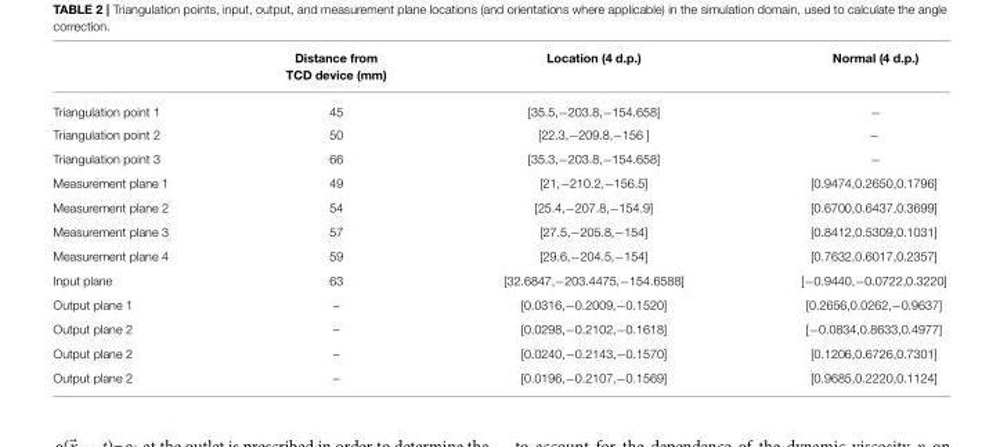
<table><thead><tr><td></td><td>Distance from TCD device (mm)</td><td>Location (4 d.p.)</td><td>Normal (4 d.p.)</td></tr></thead><tbody><tr><td>Triangulation point 1</td><td>45</td><td>[35.5,−203.8,−154.658]</td><td>−</td></tr><tr><td>Triangulation point 2</td><td>50</td><td>[22.3,−209.8,−156 ]</td><td>−</td></tr><tr><td>Triangulation point 3</td><td>66</td><td>[35.3,−203.8,−154.658]</td><td>−</td></tr><tr><td>Measurement plane 1</td><td>49</td><td>[21,−210.2,−156.5]</td><td>[0.9474,0.2650,0.1796]</td></tr><tr><td>Measurement plane 2</td><td>54</td><td>[25.4,−207.8,−154.9]</td><td>[0.6700,0.6437,0.3699]</td></tr><tr><td>Measurement plane 3</td><td>57</td><td>[27.5,−205.8,−154]</td><td>[0.8412,0.5309,0.1031]</td></tr><tr><td>Measurement plane 4</td><td>59</td><td>[29.6,−204.5,−154]</td><td>[0.7632,0.6017,0.2357]</td></tr><tr><td>Input plane</td><td>63</td><td>[32.6847,−203.4475,−154.6588]</td><td>[−0.9440,−0.0722,0.3220]</td></tr><tr><td>Output plane 1</td><td>–</td><td>[0.0316,−0.2009,−0.1520]</td><td>[0.2656,0.0262,−0.9637]</td></tr><tr><td>Output plane 2</td><td>–</td><td>[0.0298,−0.2102,−0.1618]</td><td>[−0.0834,0.8633,0.4977]</td></tr><tr><td>Output plane 2</td><td>–</td><td>[0.0240,−0.2143,−0.1570]</td><td>[0.1206,0.6726,0.7301]</td></tr><tr><td>Output plane 2</td><td>–</td><td>[0.0196,−0.2107,−0.1569]</td><td>[0.9685,0.2220,0.1124]</td></tr></tbody></table>